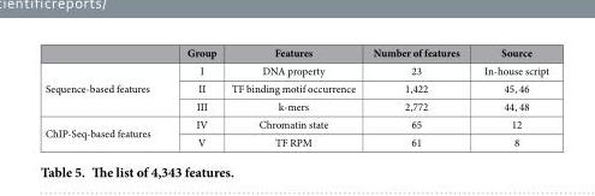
<table><thead><tr><td></td><td>Group</td><td>Features</td><td>Number of features</td><td>Source</td></tr></thead><tbody><tr><td rowspan="3">Sequence-based features</td><td>I</td><td>DNA property</td><td>23</td><td>In-house script</td></tr><tr><td>II</td><td>TF binding motif occurrence</td><td>1,422</td><td>45, 46</td></tr><tr><td>III</td><td>k-mers</td><td>2,772</td><td>44, 48</td></tr><tr><td rowspan="2">ChIP-Seq-based features</td><td>IV</td><td>Chromatin state</td><td>65</td><td>12</td></tr><tr><td>V</td><td>TF RPM</td><td>61</td><td>8</td></tr></tbody></table>